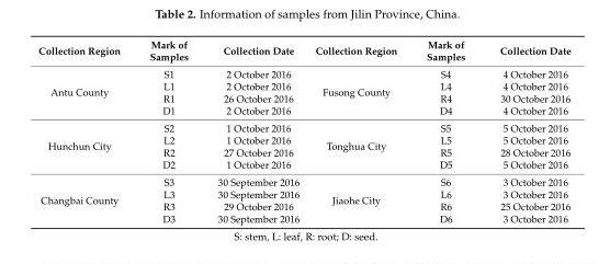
<table><thead><tr><td>Collection Region</td><td>Mark of Samples</td><td>Collection Date</td><td>Collection Region</td><td>Mark of Samples</td><td>Collection Date</td></tr></thead><tbody><tr><td rowspan="4">Antu County</td><td>S1</td><td>2 October 2016</td><td rowspan="4">Fusong County</td><td>S4</td><td>4 October 2016</td></tr><tr><td>L1</td><td>2 October 2016</td><td>L4</td><td>4 October 2016</td></tr><tr><td>R1</td><td>26 October 2016</td><td>R4</td><td>30 October 2016</td></tr><tr><td>D1</td><td>2 October 2016</td><td>D4</td><td>4 October 2016</td></tr><tr><td rowspan="4">Hunchun City</td><td>S2</td><td>1 October 2016</td><td rowspan="4">Tonghua City</td><td>S5</td><td>5 October 2016</td></tr><tr><td>L2</td><td>1 October 2016</td><td>L5</td><td>5 October 2016</td></tr><tr><td>R2</td><td>27 October 2016</td><td>R5</td><td>28 October 2016</td></tr><tr><td>D2</td><td>1 October 2016</td><td>D5</td><td>5 October 2016</td></tr><tr><td rowspan="4">Changbai County</td><td>S3</td><td>30 September 2016</td><td rowspan="4">Jiaohe City</td><td>S6</td><td>3 October 2016</td></tr><tr><td>L3</td><td>30 September 2016</td><td>L6</td><td>3 October 2016</td></tr><tr><td>R3</td><td>29 October 2016</td><td>R6</td><td>25 October 2016</td></tr><tr><td>D3</td><td>30 September 2016</td><td>D6</td><td>3 October 2016</td></tr></tbody></table>